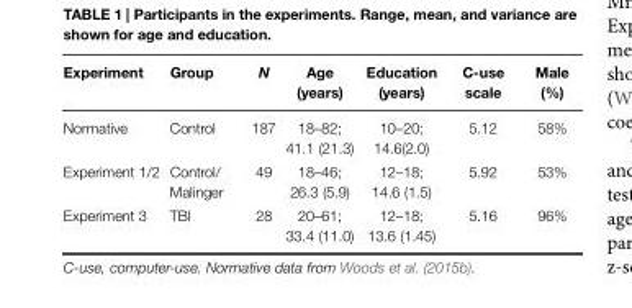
<table><thead><tr><td>Experiment</td><td>Group</td><td>N</td><td>Age (years)</td><td>Education (years)</td><td>C-use scale</td><td>Male (%)</td></tr></thead><tbody><tr><td>Normative</td><td>Control</td><td>187</td><td>18–82; 41.1 (21.3)</td><td>10–20; 14.6(2.0)</td><td>5.12</td><td>58%</td></tr><tr><td>Experiment 1/2</td><td>Control/ Malinger</td><td>49</td><td>18–46; 26.3 (5.9)</td><td>12–18; 14.6 (1.5)</td><td>5.92</td><td>53%</td></tr><tr><td>Experiment 3</td><td>TBI</td><td>28</td><td>20–61; 33.4 (11.0)</td><td>12–18; 13.6 (1.45)</td><td>5.16</td><td>96%</td></tr></tbody></table>